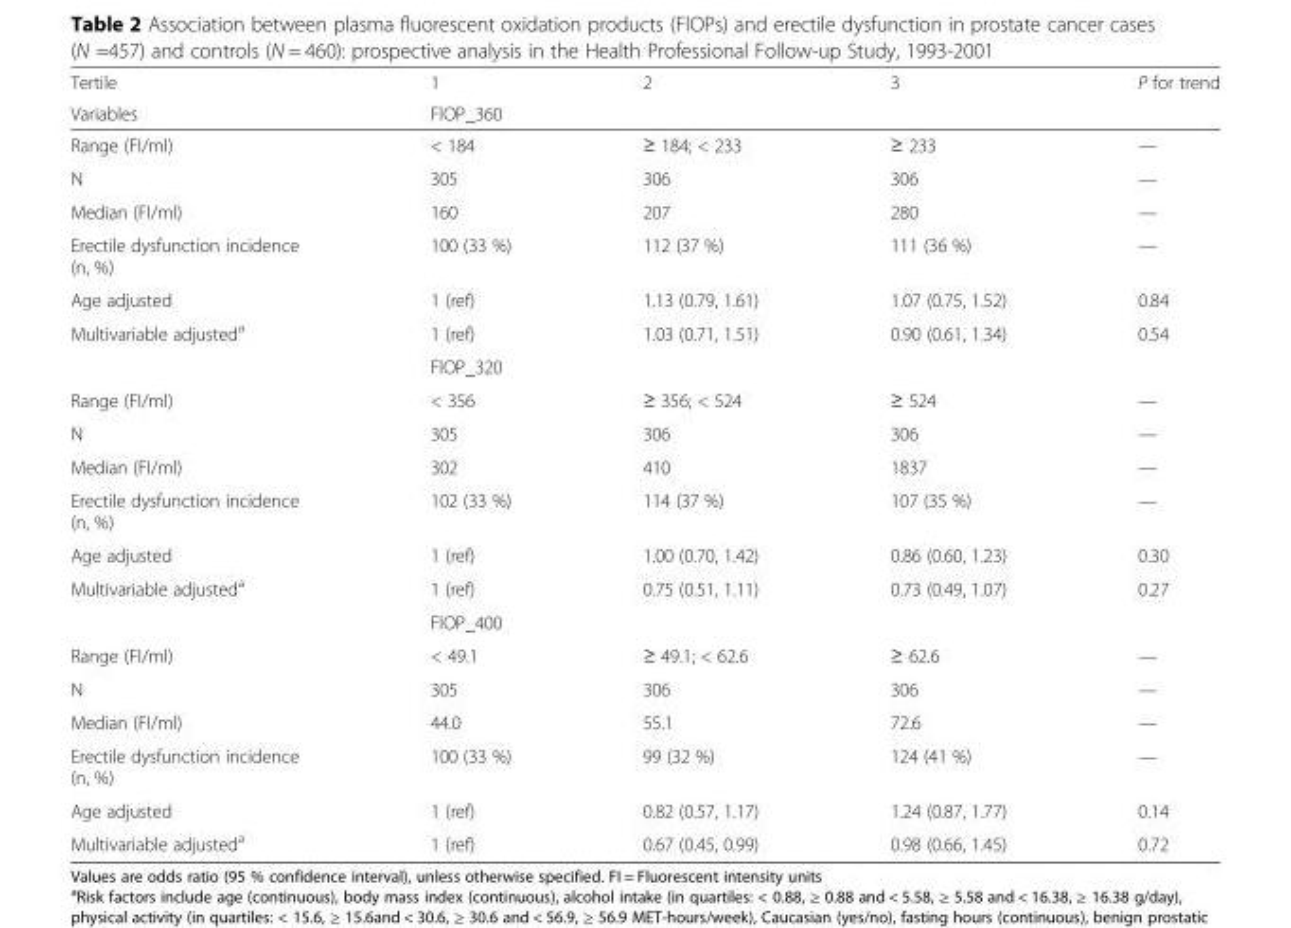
<table><thead><tr><td rowspan="2">Tertile Variables</td><td>1</td><td>2</td><td>3</td><td rowspan="2">P for trend</td></tr><tr><td colspan="3">FlOP_360</td></tr></thead><tbody><tr><td>Range (FI/ml)</td><td>&lt; 184</td><td>≥ 184; &lt; 233</td><td>≥ 233</td><td>—</td></tr><tr><td>N</td><td>305</td><td>306</td><td>306</td><td>—</td></tr><tr><td>Median (FI/ml)</td><td>160</td><td>207</td><td>280</td><td>—</td></tr><tr><td>Erectile dysfunction incidence (n, %)</td><td>100 (33 %)</td><td>112 (37 %)</td><td>111 (36 %)</td><td>—</td></tr><tr><td>Age adjusted</td><td>1 (ref)</td><td>1.13 (0.79, 1.61)</td><td>1.07 (0.75, 1.52)</td><td>0.84</td></tr><tr><td rowspan="2">Multivariable adjusted<sup>a</sup></td><td>1 (ref)</td><td>1.03 (0.71, 1.51)</td><td>0.90 (0.61, 1.34)</td><td>0.54</td></tr><tr><td colspan="3">FlOP_320</td><td></td></tr><tr><td>Range (FI/ml)</td><td>&lt; 356</td><td>≥ 356; &lt; 524</td><td>≥ 524</td><td>—</td></tr><tr><td>N</td><td>305</td><td>306</td><td>306</td><td>—</td></tr><tr><td>Median (FI/ml)</td><td>302</td><td>410</td><td>1837</td><td>—</td></tr><tr><td>Erectile dysfunction incidence (n, %)</td><td>102 (33 %)</td><td>114 (37 %)</td><td>107 (35 %)</td><td>—</td></tr><tr><td>Age adjusted</td><td>1 (ref)</td><td>1.00 (0.70, 1.42)</td><td>0.86 (0.60, 1.23)</td><td>0.30</td></tr><tr><td rowspan="2">Multivariable adjusted<sup>a</sup></td><td>1 (ref)</td><td>0.75 (0.51, 1.11)</td><td>0.73 (0.49, 1.07)</td><td>0.27</td></tr><tr><td colspan="3">FlOP_400</td><td></td></tr><tr><td>Range (FI/ml)</td><td>&lt; 49.1</td><td>≥ 49.1; &lt; 62.6</td><td>≥ 62.6</td><td>—</td></tr><tr><td>N</td><td>305</td><td>306</td><td>306</td><td>—</td></tr><tr><td>Median (FI/ml)</td><td>44.0</td><td>55.1</td><td>72.6</td><td>—</td></tr><tr><td>Erectile dysfunction incidence (n, %)</td><td>100 (33 %)</td><td>99 (32 %)</td><td>124 (41 %)</td><td>—</td></tr><tr><td>Age adjusted</td><td>1 (ref)</td><td>0.82 (0.57, 1.17)</td><td>1.24 (0.87, 1.77)</td><td>0.14</td></tr><tr><td>Multivariable adjusted<sup>a</sup></td><td>1 (ref)</td><td>0.67 (0.45, 0.99)</td><td>0.98 (0.66, 1.45)</td><td>0.72</td></tr></tbody></table>